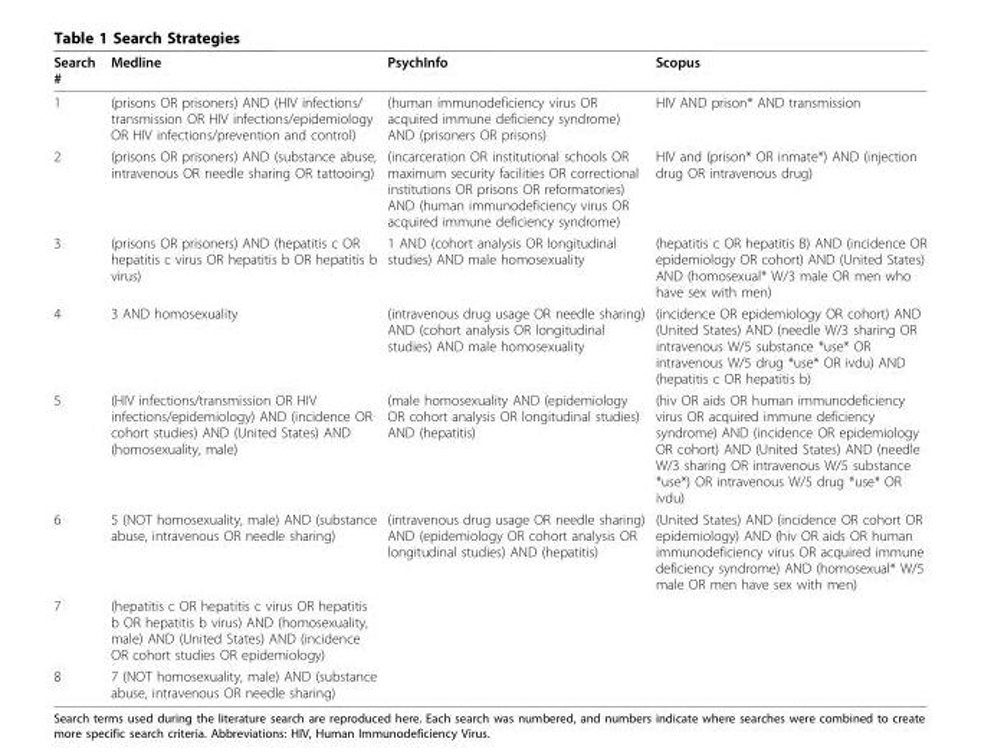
<table><thead><tr><td>Search #</td><td>Medline</td><td>PsychInfo</td><td>Scopus</td></tr></thead><tbody><tr><td>1</td><td>(prisons OR prisoners) AND (HIV infections/ transmission OR HIV infections/epidemiology OR HIV infections/prevention and control)</td><td>(human immunodeficiency virus OR acquired immune deficiency syndrome) AND (prisoners OR prisons)</td><td>HIV AND prison* AND transmission</td></tr><tr><td>2</td><td>(prisons OR prisoners) AND (substance abuse, intravenous OR needle sharing OR tattooing)</td><td>(incarceration OR institutional schools OR maximum security facilities OR correctional institutions OR prisons OR reformatories) AND (human immunodeficiency virus OR acquired immune deficiency syndrome)</td><td>HIV and (prison* OR inmate*) AND (injection drug OR intravenous drug)</td></tr><tr><td>3</td><td>(prisons OR prisoners) AND (hepatitis c OR hepatitis c virus OR hepatitis b OR hepatitis b virus)</td><td>1 AND (cohort analysis OR longitudinal studies) AND male homosexuality</td><td>(hepatitis c OR hepatitis B) AND (incidence OR epidemiology OR cohort) AND (United States) AND (homosexual* W/3 male OR men who have sex with men)</td></tr><tr><td>4</td><td>3 AND homosexuality</td><td>(intravenous drug usage OR needle sharing) AND (cohort analysis OR longitudinal studies) AND male homosexuality</td><td>(incidence OR epidemiology OR cohort) AND (United States) AND (needle W/3 sharing OR intravenous W/5 substance *use* OR intravenous W/5 drug *use* OR ivdu) AND (hepatitis c OR hepatitis b)</td></tr><tr><td>5</td><td>(HIV infections/transmission OR HIV infections/epidemiology) AND (incidence OR cohort studies) AND (United States) AND (homosexuality, male)</td><td>(male homosexuality AND (epidemiology OR cohort analysis OR longitudinal studies) AND (hepatitis)</td><td>(hiv OR aids OR human immunodeficiency virus OR acquired immune deficiency syndrome) AND (incidence OR epidemiology OR cohort) AND (United States) AND (needle W/3 sharing OR intravenous W/5 substance *use*) OR intravenous W/5 drug *use* OR ivdu)</td></tr><tr><td>6</td><td>5 (NOT homosexuality, male) AND (substance abuse, intravenous OR needle sharing)</td><td>(intravenous drug usage OR needle sharing) AND (epidemiology OR cohort analysis OR longitudinal studies) AND (hepatitis)</td><td>(United States) AND (incidence OR cohort OR epidemiology) AND (hiv OR aids OR human immunodeficiency virus OR acquired immune deficiency syndrome) AND (homosexual* W/5 male OR men have sex with men)</td></tr><tr><td>7</td><td>(hepatitis c OR hepatitis c virus OR hepatitis b OR hepatitis b virus) AND (homosexuality, male) AND (United States) AND (incidence OR cohort studies OR epidemiology)</td><td></td><td></td></tr><tr><td>8</td><td>7 (NOT homosexuality, male) AND (substance abuse, intravenous OR needle sharing)</td><td></td><td></td></tr></tbody></table>